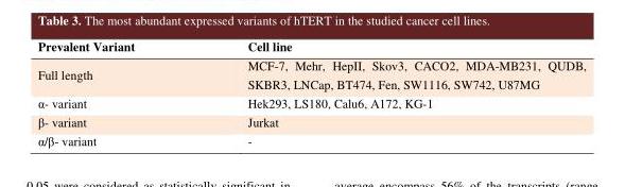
<table><thead><tr><td>Prevalent Variant</td><td>Cell line</td></tr></thead><tbody><tr><td>Full length</td><td>MCF-7, Mehr, HepII, Skov3, CACO2, MDA-MB231, QUDB, SKBR3, LNCap, BT474, Fen, SW1116, SW742, U87MG</td></tr><tr><td>α- variant</td><td>Hek293, LS180, Calu6, A172, KG-1</td></tr><tr><td>β- variant</td><td>Jurkat</td></tr><tr><td>α/β- variant</td><td>-</td></tr></tbody></table>